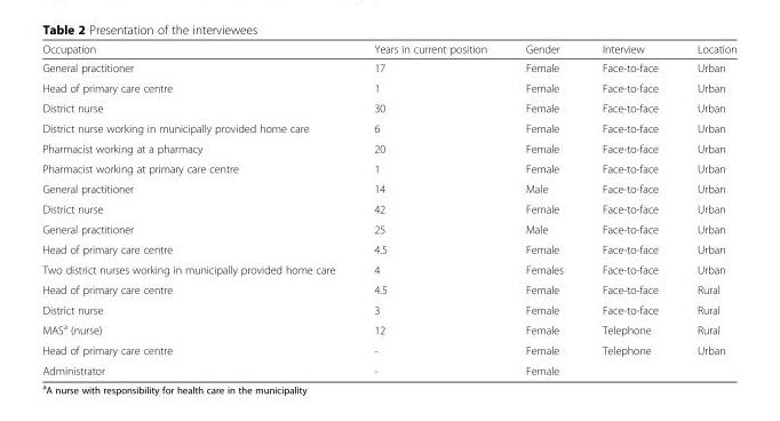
<table><thead><tr><td>Occupation</td><td>Years in current position</td><td>Gender</td><td>Interview</td><td>Location</td></tr></thead><tbody><tr><td>General practitioner</td><td>17</td><td>Female</td><td>Face-to-face</td><td>Urban</td></tr><tr><td>Head of primary care centre</td><td>1</td><td>Female</td><td>Face-to-face</td><td>Urban</td></tr><tr><td>District nurse</td><td>30</td><td>Female</td><td>Face-to-face</td><td>Urban</td></tr><tr><td>District nurse working in municipally provided home care</td><td>6</td><td>Female</td><td>Face-to-face</td><td>Urban</td></tr><tr><td>Pharmacist working at a pharmacy</td><td>20</td><td>Female</td><td>Face-to-face</td><td>Urban</td></tr><tr><td>Pharmacist working at primary care centre</td><td>1</td><td>Female</td><td>Face-to-face</td><td>Urban</td></tr><tr><td>General practitioner</td><td>14</td><td>Male</td><td>Face-to-face</td><td>Urban</td></tr><tr><td>District nurse</td><td>42</td><td>Female</td><td>Face-to-face</td><td>Urban</td></tr><tr><td>General practitioner</td><td>25</td><td>Male</td><td>Face-to-face</td><td>Urban</td></tr><tr><td>Head of primary care centre</td><td>4.5</td><td>Female</td><td>Face-to-face</td><td>Urban</td></tr><tr><td>Two district nurses working in municipally provided home care</td><td>4</td><td>Females</td><td>Face-to-face</td><td>Urban</td></tr><tr><td>Head of primary care centre</td><td>4.5</td><td>Female</td><td>Face-to-face</td><td>Rural</td></tr><tr><td>District nurse</td><td>3</td><td>Female</td><td>Face-to-face</td><td>Rural</td></tr><tr><td>MAS<sup>a</sup> (nurse)</td><td>12</td><td>Female</td><td>Telephone</td><td>Rural</td></tr><tr><td>Head of primary care centre</td><td>-</td><td>Female</td><td>Telephone</td><td>Urban</td></tr><tr><td>Administrator</td><td>-</td><td>Female</td><td></td><td></td></tr></tbody></table>